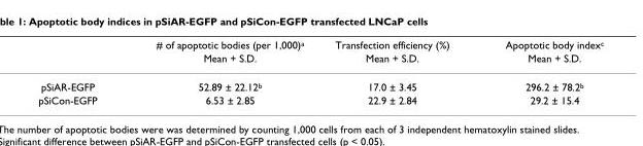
<table><thead><tr><td rowspan="2"></td><td rowspan="2"># of apoptotic bodies (per 1,000)<sup>a</sup> Mean + S.D.</td><td rowspan="2">Transfection efficiency (%) Mean + S.D.</td><td rowspan="2">Apoptotic body index<sup>c</sup> Mean + S.D.</td></tr><tr></tr></thead><tbody><tr><td>pSiAR-EGFP</td><td>52.89 ± 22.12<sup>b</sup></td><td>17.0 ± 3.45</td><td>296.2 ± 78.2<sup>b</sup></td></tr><tr><td>pSiCon-EGFP</td><td>6.53 ± 2.85</td><td>22.9 ± 2.84</td><td>29.2 ± 15.4</td></tr></tbody></table>